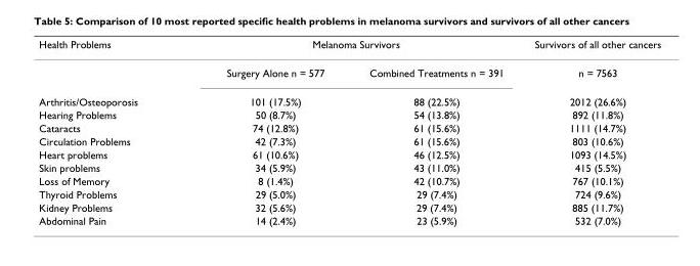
<table><thead><tr><td rowspan="2">Health Problems</td><td colspan="2">Melanoma Survivors</td><td rowspan="2">Survivors of all other cancers n = 7563</td></tr><tr><td>Surgery Alone n = 577</td><td>Combined Treatments n = 391</td></tr></thead><tbody><tr><td>Arthritis/Osteoporosis</td><td>101 (17.5%)</td><td>88 (22.5%)</td><td>2012 (26.6%)</td></tr><tr><td>Hearing Problems</td><td>50 (8.7%)</td><td>54 (13.8%)</td><td>892 (11.8%)</td></tr><tr><td>Cataracts</td><td>74 (12.8%)</td><td>61 (15.6%)</td><td>1111 (14.7%)</td></tr><tr><td>Circulation Problems</td><td>42 (7.3%)</td><td>61 (15.6%)</td><td>803 (10.6%)</td></tr><tr><td>Heart problems</td><td>61 (10.6%)</td><td>46 (12.5%)</td><td>1093 (14.5%)</td></tr><tr><td>Skin problems</td><td>34 (5.9%)</td><td>43 (11.0%)</td><td>415 (5.5%)</td></tr><tr><td>Loss of Memory</td><td>8 (1.4%)</td><td>42 (10.7%)</td><td>767 (10.1%)</td></tr><tr><td>Thyroid Problems</td><td>29 (5.0%)</td><td>29 (7.4%)</td><td>724 (9.6%)</td></tr><tr><td>Kidney Problems</td><td>32 (5.6%)</td><td>29 (7.4%)</td><td>885 (11.7%)</td></tr><tr><td>Abdominal Pain</td><td>14 (2.4%)</td><td>23 (5.9%)</td><td>532 (7.0%)</td></tr></tbody></table>